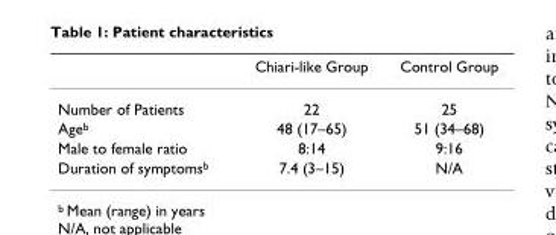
<table><thead><tr><td></td><td>Chiari-like Group</td><td>Control Group</td></tr></thead><tbody><tr><td>Number of Patients</td><td>22</td><td>25</td></tr><tr><td>Age<sup>b</sup></td><td>48 (17–65)</td><td>51 (34–68)</td></tr><tr><td>Male to female ratio</td><td>8:14</td><td>9:16</td></tr><tr><td>Duration of symptoms<sup>b</sup></td><td>7.4 (3–15)</td><td>N/A</td></tr></tbody></table>